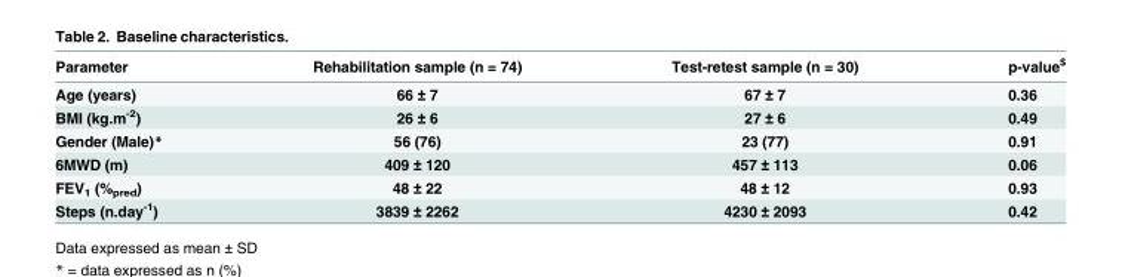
<table><thead><tr><td>Parameter</td><td>Rehabilitation sample (n = 74)</td><td>Test-retest sample (n = 30)</td><td>p-value<sup>$</sup></td></tr></thead><tbody><tr><td>Age (years)</td><td>66 ± 7</td><td>67 ± 7</td><td>0.36</td></tr><tr><td>BMI (kg.m<sup>-2</sup>)</td><td>26 ± 6</td><td>27 ± 6</td><td>0.49</td></tr><tr><td>Gender (Male)*</td><td>56 (76)</td><td>23 (77)</td><td>0.91</td></tr><tr><td>6MWD (m)</td><td>409 ± 120</td><td>457 ± 113</td><td>0.06</td></tr><tr><td>FEV<sub>1</sub> (%<sub>pred</sub>)</td><td>48 ± 22</td><td>48 ± 12</td><td>0.93</td></tr><tr><td>Steps (n.day<sup>-1</sup>)</td><td>3839 ± 2262</td><td>4230 ± 2093</td><td>0.42</td></tr></tbody></table>